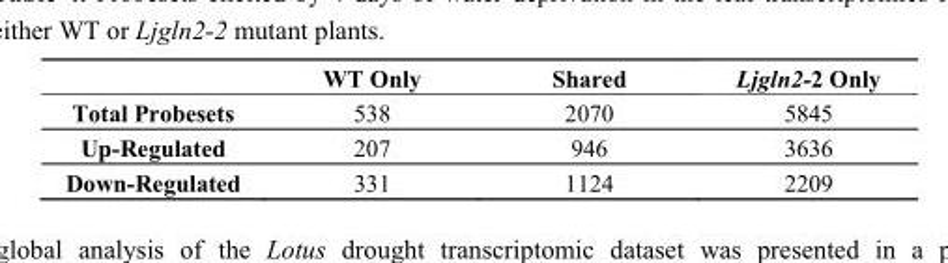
<table><thead><tr><td></td><td>WT Only</td><td>Shared</td><td>Ljgln2-2 Only</td></tr></thead><tbody><tr><td>Total Probesets</td><td>538</td><td>2070</td><td>5845</td></tr><tr><td>Up-Regulated</td><td>207</td><td>946</td><td>3636</td></tr><tr><td>Down-Regulated</td><td>331</td><td>1124</td><td>2209</td></tr></tbody></table>